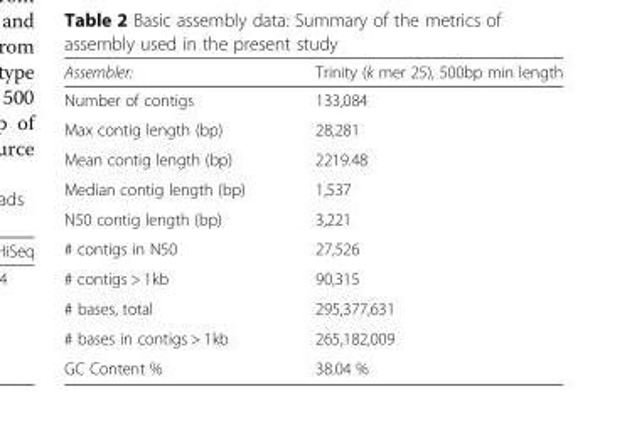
<table><thead><tr><td>Assembler:</td><td>Trinity (k mer 25), 500bp min length</td></tr></thead><tbody><tr><td>Number of contigs</td><td>133,084</td></tr><tr><td>Max contig length (bp)</td><td>28,281</td></tr><tr><td>Mean contig length (bp)</td><td>2219.48</td></tr><tr><td>Median contig length (bp)</td><td>1,537</td></tr><tr><td>N50 contig length (bp)</td><td>3,221</td></tr><tr><td># contigs in N50</td><td>27,526</td></tr><tr><td># contigs &gt; 1kb</td><td>90,315</td></tr><tr><td># bases, total</td><td>295,377,631</td></tr><tr><td># bases in contigs &gt; 1kb</td><td>265,182,009</td></tr><tr><td>GC Content %</td><td>38.04 %</td></tr></tbody></table>